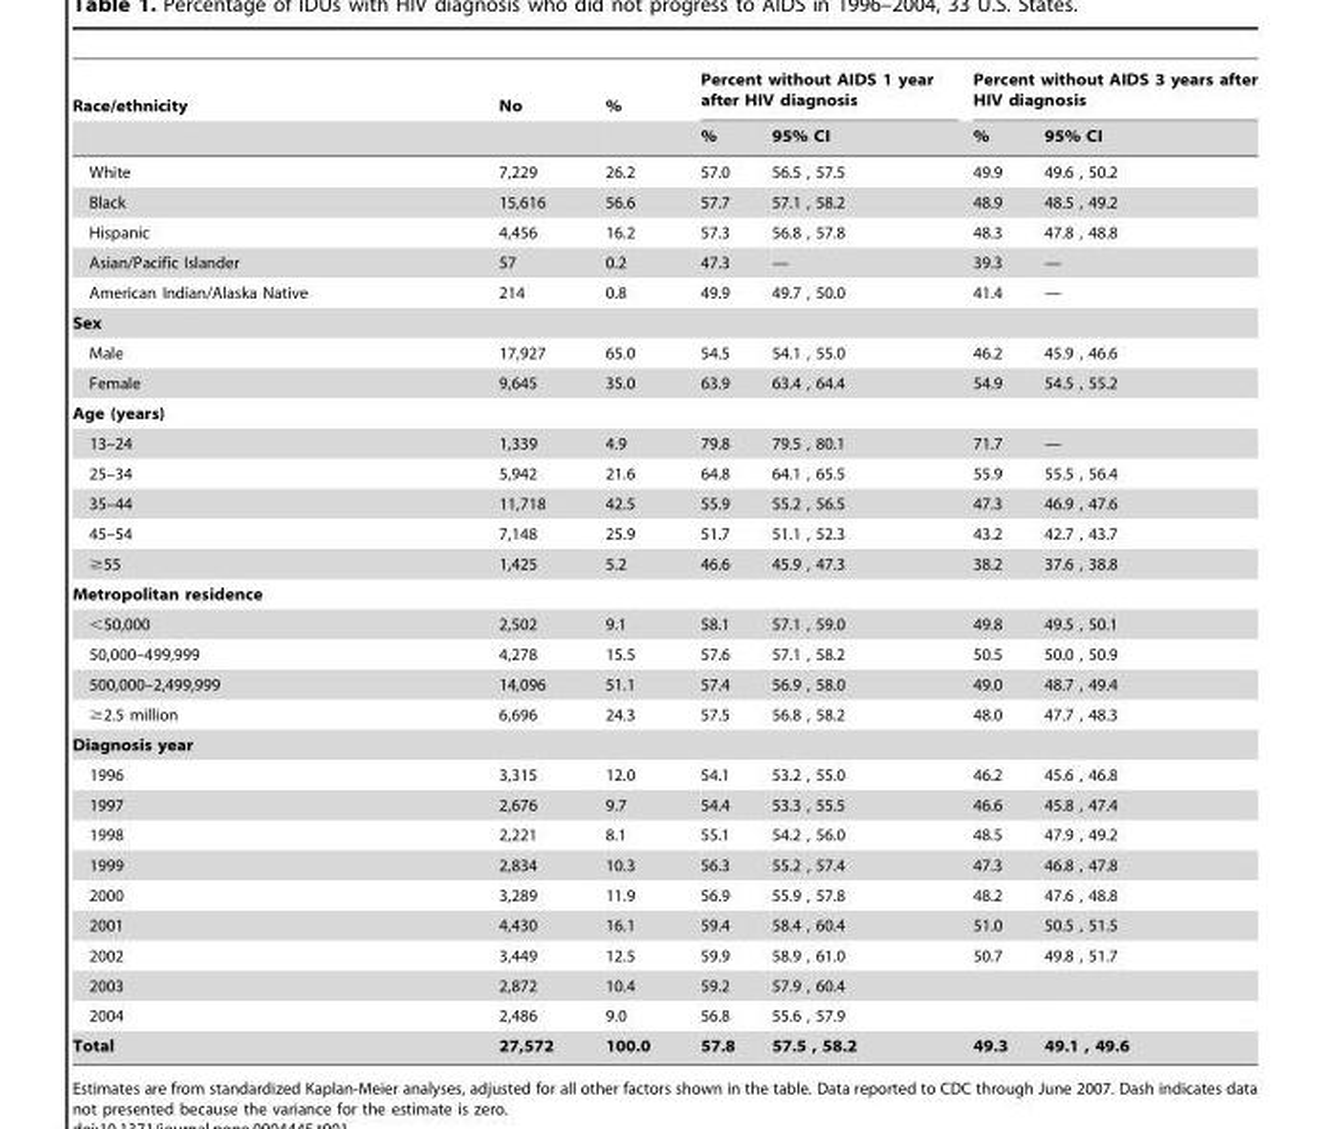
<table><thead><tr><td rowspan="2">Race/ethnicity</td><td rowspan="2">No</td><td rowspan="2">%</td><td colspan="2">Percent without AIDS 1 year after HIV diagnosis</td><td colspan="2">Percent without AIDS 3 years after HIV diagnosis</td></tr><tr><td>%</td><td>95% CI</td><td>%</td><td>95% CI</td></tr></thead><tbody><tr><td>White</td><td>7,229</td><td>26.2</td><td>57.0</td><td>56.5 , 57.5</td><td>49.9</td><td>49.6 , 50.2</td></tr><tr><td>Black</td><td>15,616</td><td>56.6</td><td>57.7</td><td>57.1 , 58.2</td><td>48.9</td><td>48.5 , 49.2</td></tr><tr><td>Hispanic</td><td>4,456</td><td>16.2</td><td>57.3</td><td>56.8 , 57.8</td><td>48.3</td><td>47.8 , 48.8</td></tr><tr><td>Asian/Pacific Islander</td><td>57</td><td>0.2</td><td>47.3</td><td>—</td><td>39.3</td><td>—</td></tr><tr><td>American Indian/Alaska Native</td><td>214</td><td>0.8</td><td>49.9</td><td>49.7 , 50.0</td><td>41.4</td><td>—</td></tr><tr><td colspan="7">Sex</td></tr><tr><td>Male</td><td>17,927</td><td>65.0</td><td>54.5</td><td>54.1 , 55.0</td><td>46.2</td><td>45.9 , 46.6</td></tr><tr><td>Female</td><td>9,645</td><td>35.0</td><td>63.9</td><td>63.4 , 64.4</td><td>54.9</td><td>54.5 , 55.2</td></tr><tr><td colspan="7">Age (years)</td></tr><tr><td>13–24</td><td>1,339</td><td>4.9</td><td>79.8</td><td>79.5 , 80.1</td><td>71.7</td><td>—</td></tr><tr><td>25–34</td><td>5,942</td><td>21.6</td><td>64.8</td><td>64.1 , 65.5</td><td>55.9</td><td>55.5 , 56.4</td></tr><tr><td>35–44</td><td>11,718</td><td>42.5</td><td>55.9</td><td>55.2 , 56.5</td><td>47.3</td><td>46.9 , 47.6</td></tr><tr><td>45–54</td><td>7,148</td><td>25.9</td><td>51.7</td><td>51.1 , 52.3</td><td>43.2</td><td>42.7 , 43.7</td></tr><tr><td>≥55</td><td>1,425</td><td>5.2</td><td>46.6</td><td>45.9 , 47.3</td><td>38.2</td><td>37.6 , 38.8</td></tr><tr><td colspan="7">Metropolitan residence</td></tr><tr><td>&lt;50,000</td><td>2,502</td><td>9.1</td><td>58.1</td><td>57.1 , 59.0</td><td>49.8</td><td>49.5 , 50.1</td></tr><tr><td>50,000–499,999</td><td>4,278</td><td>15.5</td><td>57.6</td><td>57.1 , 58.2</td><td>50.5</td><td>50.0 , 50.9</td></tr><tr><td>500,000–2,499,999</td><td>14,096</td><td>51.1</td><td>57.4</td><td>56.9 , 58.0</td><td>49.0</td><td>48.7 , 49.4</td></tr><tr><td>≥2.5 million</td><td>6,696</td><td>24.3</td><td>57.5</td><td>56.8 , 58.2</td><td>48.0</td><td>47.7 , 48.3</td></tr><tr><td colspan="7">Diagnosis year</td></tr><tr><td>1996</td><td>3,315</td><td>12.0</td><td>54.1</td><td>53.2 , 55.0</td><td>46.2</td><td>45.6 , 46.8</td></tr><tr><td>1997</td><td>2,676</td><td>9.7</td><td>54.4</td><td>53.3 , 55.5</td><td>46.6</td><td>45.8 , 47.4</td></tr><tr><td>1998</td><td>2,221</td><td>8.1</td><td>55.1</td><td>54.2 , 56.0</td><td>48.5</td><td>47.9 , 49.2</td></tr><tr><td>1999</td><td>2,834</td><td>10.3</td><td>56.3</td><td>55.2 , 57.4</td><td>47.3</td><td>46.8 , 47.8</td></tr><tr><td>2000</td><td>3,289</td><td>11.9</td><td>56.9</td><td>55.9 , 57.8</td><td>48.2</td><td>47.6 , 48.8</td></tr><tr><td>2001</td><td>4,430</td><td>16.1</td><td>59.4</td><td>58.4 , 60.4</td><td>51.0</td><td>50.5 , 51.5</td></tr><tr><td>2002</td><td>3,449</td><td>12.5</td><td>59.9</td><td>58.9 , 61.0</td><td>50.7</td><td>49.8 , 51.7</td></tr><tr><td>2003</td><td>2,872</td><td>10.4</td><td>59.2</td><td>57.9 , 60.4</td><td></td><td></td></tr><tr><td>2004</td><td>2,486</td><td>9.0</td><td>56.8</td><td>55.6 , 57.9</td><td></td><td></td></tr><tr><td>Total</td><td>27,572</td><td>100.0</td><td>57.8</td><td>57.5 , 58.2</td><td>49.3</td><td>49.1 , 49.6</td></tr></tbody></table>